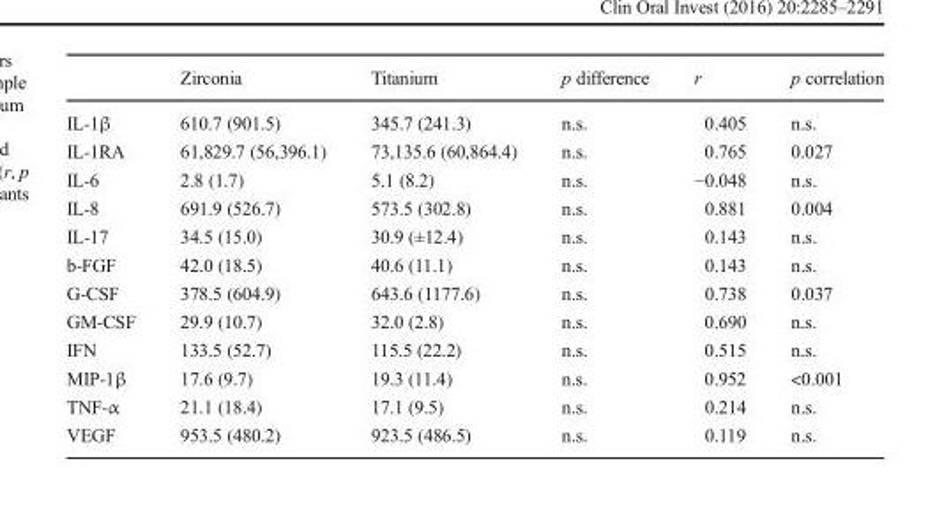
<table><thead><tr><td></td><td>Zirconia</td><td>Titanium</td><td>p difference</td><td>r</td><td>p correlation</td></tr></thead><tbody><tr><td>IL-1β</td><td>610.7 (901.5)</td><td>345.7 (241.3)</td><td>n.s.</td><td>0.405</td><td>n.s.</td></tr><tr><td>IL-1RA</td><td>61,829.7 (56,396.1)</td><td>73,135.6 (60,864.4)</td><td>n.s.</td><td>0.765</td><td>0.027</td></tr><tr><td>IL-6</td><td>2.8 (1.7)</td><td>5.1 (8.2)</td><td>n.s.</td><td>−0.048</td><td>n.s.</td></tr><tr><td>IL-8</td><td>691.9 (526.7)</td><td>573.5 (302.8)</td><td>n.s.</td><td>0.881</td><td>0.004</td></tr><tr><td>IL-17</td><td>34.5 (15.0)</td><td>30.9 (±12.4)</td><td>n.s.</td><td>0.143</td><td>n.s.</td></tr><tr><td>b-FGF</td><td>42.0 (18.5)</td><td>40.6 (11.1)</td><td>n.s.</td><td>0.143</td><td>n.s.</td></tr><tr><td>G-CSF</td><td>378.5 (604.9)</td><td>643.6 (1177.6)</td><td>n.s.</td><td>0.738</td><td>0.037</td></tr><tr><td>GM-CSF</td><td>29.9 (10.7)</td><td>32.0 (2.8)</td><td>n.s.</td><td>0.690</td><td>n.s.</td></tr><tr><td>IFN</td><td>133.5 (52.7)</td><td>115.5 (22.2)</td><td>n.s.</td><td>0.515</td><td>n.s.</td></tr><tr><td>MIP-1β</td><td>17.6 (9.7)</td><td>19.3 (11.4)</td><td>n.s.</td><td>0.952</td><td>&lt;0.001</td></tr><tr><td>TNF-α</td><td>21.1 (18.4)</td><td>17.1 (9.5)</td><td>n.s.</td><td>0.214</td><td>n.s.</td></tr><tr><td>VEGF</td><td>953.5 (480.2)</td><td>923.5 (486.5)</td><td>n.s.</td><td>0.119</td><td>n.s.</td></tr></tbody></table>